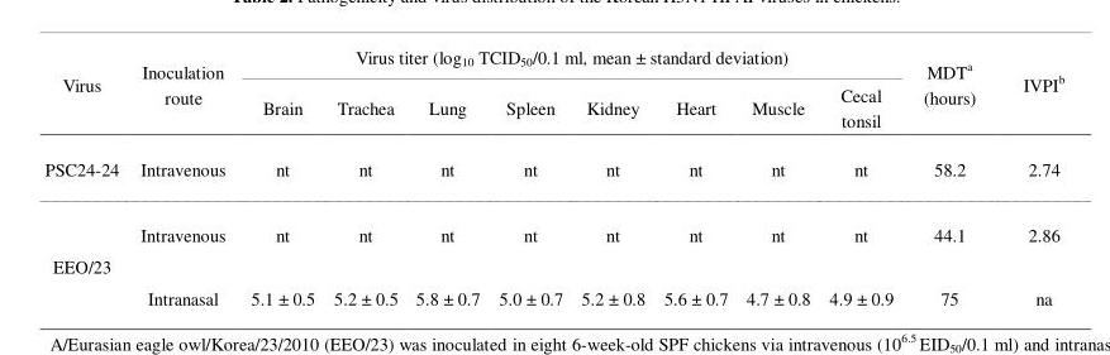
<table><thead><tr><td rowspan="2">Virus</td><td rowspan="2">Inoculation route</td><td colspan="8">Virus titer (log<sub>10</sub> TCID<sub>50</sub>/0.1 ml, mean ± standard deviation)</td><td rowspan="2">MDT<sup>a</sup> (hours)</td><td rowspan="2">IVPI<sup>b</sup></td></tr><tr><td>Brain</td><td>Trachea</td><td>Lung</td><td>Spleen</td><td>Kidney</td><td>Heart</td><td>Muscle</td><td>Cecal tonsil</td></tr></thead><tbody><tr><td>PSC24-24</td><td>Intravenous</td><td>nt</td><td>nt</td><td>nt</td><td>nt</td><td>nt</td><td>nt</td><td>nt</td><td>nt</td><td>58.2</td><td>2.74</td></tr><tr><td rowspan="2">EEO/23</td><td>Intravenous</td><td>nt</td><td>nt</td><td>nt</td><td>nt</td><td>nt</td><td>nt</td><td>nt</td><td>nt</td><td>44.1</td><td>2.86</td></tr><tr><td>Intranasal</td><td>5.1 ± 0.5</td><td>5.2 ± 0.5</td><td>5.8 ± 0.7</td><td>5.0 ± 0.7</td><td>5.2 ± 0.8</td><td>5.6 ± 0.7</td><td>4.7 ± 0.8</td><td>4.9 ± 0.9</td><td>75</td><td>na</td></tr></tbody></table>